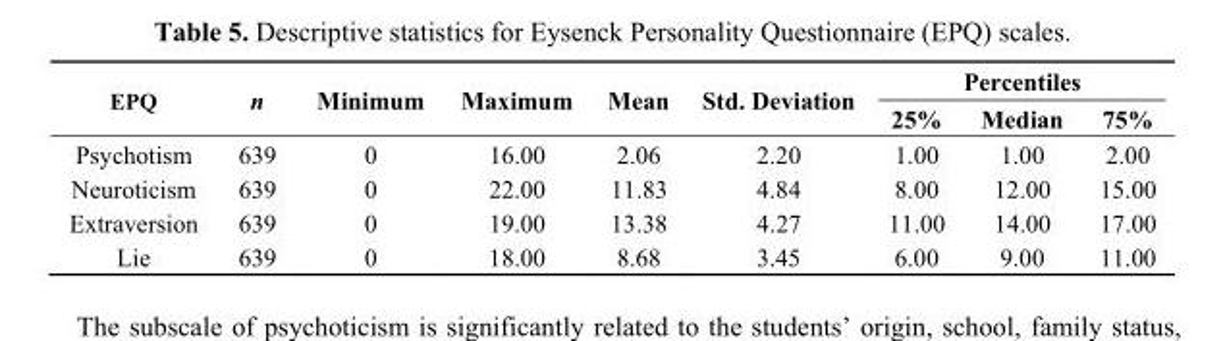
<table><thead><tr><td rowspan="2">EPQ</td><td rowspan="2">n</td><td rowspan="2">Minimum</td><td rowspan="2">Maximum</td><td rowspan="2">Mean</td><td rowspan="2">Std. Deviation</td><td colspan="3">Percentiles</td></tr><tr><td>25%</td><td>Median</td><td>75%</td></tr></thead><tbody><tr><td>Psychotism</td><td>639</td><td>0</td><td>16.00</td><td>2.06</td><td>2.20</td><td>1.00</td><td>1.00</td><td>2.00</td></tr><tr><td>Neuroticism</td><td>639</td><td>0</td><td>22.00</td><td>11.83</td><td>4.84</td><td>8.00</td><td>12.00</td><td>15.00</td></tr><tr><td>Extraversion</td><td>639</td><td>0</td><td>19.00</td><td>13.38</td><td>4.27</td><td>11.00</td><td>14.00</td><td>17.00</td></tr><tr><td>Lie</td><td>639</td><td>0</td><td>18.00</td><td>8.68</td><td>3.45</td><td>6.00</td><td>9.00</td><td>11.00</td></tr></tbody></table>